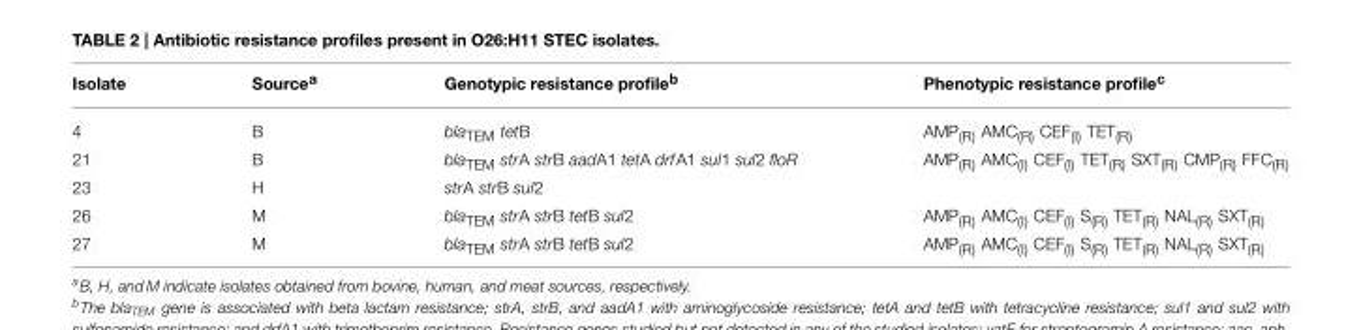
<table><thead><tr><td>Isolate</td><td>Source<sup>a</sup></td><td>Genotypic resistance profile<sup>b</sup></td><td>Phenotypic resistance profile<sup>c</sup></td></tr></thead><tbody><tr><td>4</td><td>B</td><td>bla<sub>TEM</sub> tetB</td><td>AMP<sub>(R)</sub> AMC<sub>(R)</sub> CEF<sub>(I)</sub> TET<sub>(R)</sub></td></tr><tr><td>21</td><td>B</td><td>bla<sub>TEM</sub> strA strB aadA1 tetA drfA1 sul1 sul2 floR</td><td>AMP<sub>(R)</sub> AMC<sub>(I)</sub> CEF<sub>(I)</sub> TET<sub>(R)</sub> SXT<sub>(R)</sub> CMP<sub>(R)</sub> FFC<sub>(R)</sub></td></tr><tr><td>23</td><td>H</td><td>strA strB sul2</td><td></td></tr><tr><td>26</td><td>M</td><td>bla<sub>TEM</sub> strA strB tetB sul2</td><td>AMP<sub>(R)</sub> AMC<sub>(I)</sub> CEF<sub>(I)</sub> S<sub>(R)</sub> TET<sub>(R)</sub> NAL<sub>(R)</sub> SXT<sub>(R)</sub></td></tr><tr><td>27</td><td>M</td><td>bla<sub>TEM</sub> strA strB tetB sul2</td><td>AMP<sub>(R)</sub> AMC<sub>(I)</sub> CEF<sub>(I)</sub> S<sub>(R)</sub> TET<sub>(R)</sub> NAL<sub>(R)</sub> SXT<sub>(R)</sub></td></tr></tbody></table>